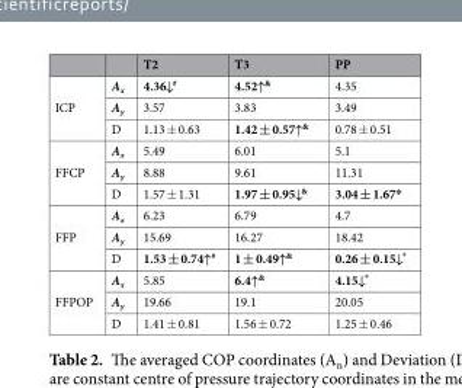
<table><thead><tr><td></td><td></td><td>T2</td><td>T3</td><td>PP</td></tr></thead><tbody><tr><td rowspan="3">ICP</td><td>A<sub>x</sub></td><td>4.36↓<sup>#</sup></td><td>4.52↑<sup>&amp;</sup></td><td>4.35</td></tr><tr><td>A<sub>y</sub></td><td>3.57</td><td>3.83</td><td>3.49</td></tr><tr><td>D</td><td>1.13 ± 0.63</td><td>1.42 ± 0.57↑<sup>&amp;</sup></td><td>0.78 ± 0.51</td></tr><tr><td rowspan="3">FFCP</td><td>A<sub>x</sub></td><td>5.49</td><td>6.01</td><td>5.1</td></tr><tr><td>A<sub>y</sub></td><td>8.88</td><td>9.61</td><td>11.31</td></tr><tr><td>D</td><td>1.57 ± 1.31</td><td>1.97 ± 0.95↓<sup>&amp;</sup></td><td>3.04 ± 1.67*</td></tr><tr><td rowspan="3">FFP</td><td>A<sub>x</sub></td><td>6.23</td><td>6.79</td><td>4.7</td></tr><tr><td>A<sub>y</sub></td><td>15.69</td><td>16.27</td><td>18.42</td></tr><tr><td>D</td><td>1.53 ± 0.74↑<sup>#</sup></td><td>1 ± 0.49↑<sup>&amp;</sup></td><td>0.26 ± 0.15↓*</td></tr><tr><td rowspan="3">FFPOP</td><td>A<sub>x</sub></td><td>5.85</td><td>6.4↑<sup>&amp;</sup></td><td>4.15↓*</td></tr><tr><td>A<sub>y</sub></td><td>19.66</td><td>19.1</td><td>20.05</td></tr><tr><td>D</td><td>1.41 ± 0.81</td><td>1.56 ± 0.72</td><td>1.25 ± 0.46</td></tr></tbody></table>